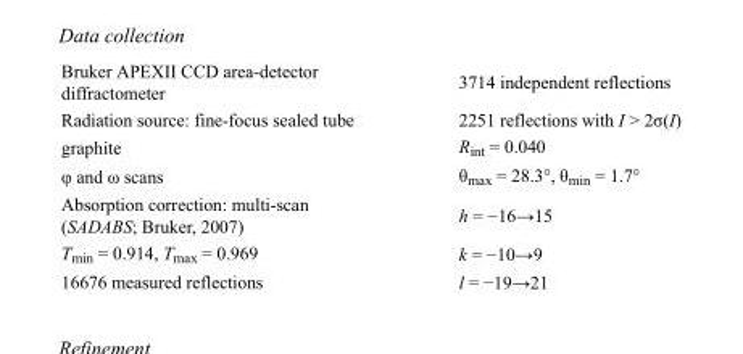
<table><tbody><tr><td>Bruker APEXII CCD area-detector diffractometer</td><td>3714 independent reflections</td></tr><tr><td>Radiation source: fine-focus sealed tube</td><td>2251 reflections with I &gt; 2σ(I)</td></tr><tr><td>graphite</td><td>R<sub>int</sub> = 0.040</td></tr><tr><td>φ and ω scans</td><td>θ<sub>max</sub> = 28.3°, θ<sub>min</sub> = 1.7°</td></tr><tr><td>Absorption correction: multi-scan (SADABS; Bruker, 2007)</td><td>h = −16→15</td></tr><tr><td>T<sub>min</sub> = 0.914, T<sub>max</sub> = 0.969</td><td>k = −10→9</td></tr><tr><td>16676 measured reflections</td><td>l = −19→21</td></tr></tbody></table>